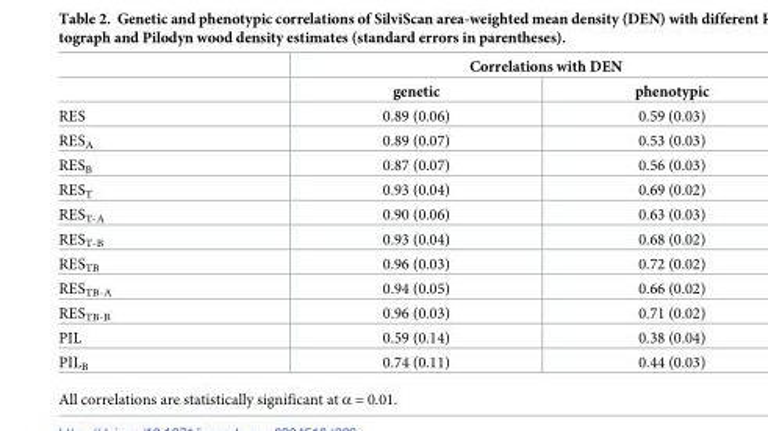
<table><thead><tr><td rowspan="2"></td><td colspan="2">Correlations with DEN</td></tr><tr><td>genetic</td><td>phenotypic</td></tr></thead><tbody><tr><td>RES</td><td>0.89 (0.06)</td><td>0.59 (0.03)</td></tr><tr><td>RES<sub>A</sub></td><td>0.89 (0.07)</td><td>0.53 (0.03)</td></tr><tr><td>RES<sub>B</sub></td><td>0.87 (0.07)</td><td>0.56 (0.03)</td></tr><tr><td>RES<sub>T</sub></td><td>0.93 (0.04)</td><td>0.69 (0.02)</td></tr><tr><td>RES<sub>T-A</sub></td><td>0.90 (0.06)</td><td>0.63 (0.03)</td></tr><tr><td>RES<sub>T-B</sub></td><td>0.93 (0.04)</td><td>0.68 (0.02)</td></tr><tr><td>RES<sub>TB</sub></td><td>0.96 (0.03)</td><td>0.72 (0.02)</td></tr><tr><td>RES<sub>TB-A</sub></td><td>0.94 (0.05)</td><td>0.66 (0.02)</td></tr><tr><td>RES<sub>TB-B</sub></td><td>0.96 (0.03)</td><td>0.71 (0.02)</td></tr><tr><td>PIL</td><td>0.59 (0.14)</td><td>0.38 (0.04)</td></tr><tr><td>PIL<sub>B</sub></td><td>0.74 (0.11)</td><td>0.44 (0.03)</td></tr></tbody></table>